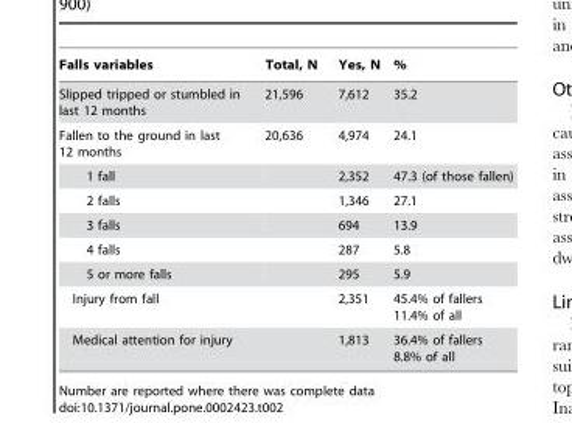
<table><thead><tr><td>Falls variables</td><td>Total, N</td><td>Yes, N</td><td>%</td></tr></thead><tbody><tr><td>Slipped tripped or stumbled in last 12 months</td><td>21,596</td><td>7,612</td><td>35.2</td></tr><tr><td>Fallen to the ground in last 12 months</td><td>20,636</td><td>4,974</td><td>24.1</td></tr><tr><td>1 fall</td><td></td><td>2,352</td><td>47.3 (of those fallen)</td></tr><tr><td>2 falls</td><td></td><td>1,346</td><td>27.1</td></tr><tr><td>3 falls</td><td></td><td>694</td><td>13.9</td></tr><tr><td>4 falls</td><td></td><td>287</td><td>5.8</td></tr><tr><td>5 or more falls</td><td></td><td>295</td><td>5.9</td></tr><tr><td>Injury from fall</td><td></td><td>2,351</td><td>45.4% of fallers 11.4% of all</td></tr><tr><td>Medical attention for injury</td><td></td><td>1,813</td><td>36.4% of fallers 8.8% of all</td></tr></tbody></table>